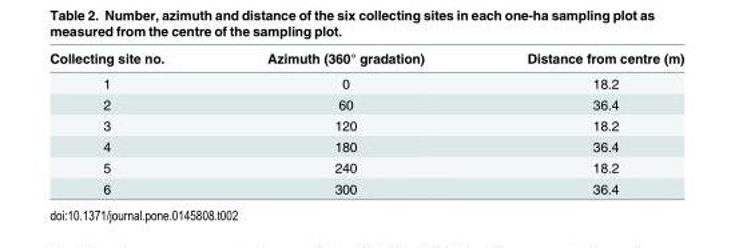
<table><thead><tr><td>Collecting site no.</td><td>Azimuth (360° gradation)</td><td>Distance from centre (m)</td></tr></thead><tbody><tr><td>1</td><td>0</td><td>18.2</td></tr><tr><td>2</td><td>60</td><td>36.4</td></tr><tr><td>3</td><td>120</td><td>18.2</td></tr><tr><td>4</td><td>180</td><td>36.4</td></tr><tr><td>5</td><td>240</td><td>18.2</td></tr><tr><td>6</td><td>300</td><td>36.4</td></tr></tbody></table>